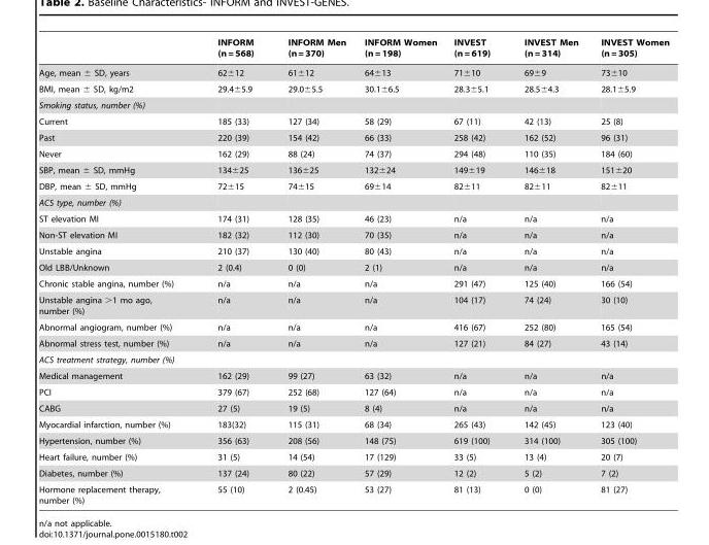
<table><thead><tr><td></td><td>INFORM (n = 568)</td><td>INFORM Men (n = 370)</td><td>INFORM Women (n = 198)</td><td>INVEST (n = 619)</td><td>INVEST Men (n = 314)</td><td>INVEST Women (n = 305)</td></tr></thead><tbody><tr><td>Age, mean ± SD, years</td><td>62±12</td><td>61±12</td><td>64±13</td><td>71±10</td><td>69±9</td><td>73±10</td></tr><tr><td>BMI, mean ± SD, kg/m2</td><td>29.4±5.9</td><td>29.0±5.5</td><td>30.1±6.5</td><td>28.3±5.1</td><td>28.5±4.3</td><td>28.1±5.9</td></tr><tr><td colspan="7">Smoking status, number (%)</td></tr><tr><td>Current</td><td>185 (33)</td><td>127 (34)</td><td>58 (29)</td><td>67 (11)</td><td>42 (13)</td><td>25 (8)</td></tr><tr><td>Past</td><td>220 (39)</td><td>154 (42)</td><td>66 (33)</td><td>258 (42)</td><td>162 (52)</td><td>96 (31)</td></tr><tr><td>Never</td><td>162 (29)</td><td>88 (24)</td><td>74 (37)</td><td>294 (48)</td><td>110 (35)</td><td>184 (60)</td></tr><tr><td>SBP, mean ± SD, mmHg</td><td>134±25</td><td>136±25</td><td>132±24</td><td>149±19</td><td>146±18</td><td>151±20</td></tr><tr><td>DBP, mean ± SD, mmHg</td><td>72±15</td><td>74±15</td><td>69±14</td><td>82±11</td><td>82±11</td><td>82±11</td></tr><tr><td colspan="7">ACS type, number (%)</td></tr><tr><td>ST elevation MI</td><td>174 (31)</td><td>128 (35)</td><td>46 (23)</td><td>n/a</td><td>n/a</td><td>n/a</td></tr><tr><td>Non-ST elevation MI</td><td>182 (32)</td><td>112 (30)</td><td>70 (35)</td><td>n/a</td><td>n/a</td><td>n/a</td></tr><tr><td>Unstable angina</td><td>210 (37)</td><td>130 (40)</td><td>80 (43)</td><td>n/a</td><td>n/a</td><td>n/a</td></tr><tr><td>Old LBB/Unknown</td><td>2 (0.4)</td><td>0 (0)</td><td>2 (1)</td><td>n/a</td><td>n/a</td><td>n/a</td></tr><tr><td>Chronic stable angina, number (%)</td><td>n/a</td><td>n/a</td><td>n/a</td><td>291 (47)</td><td>125 (40)</td><td>166 (54)</td></tr><tr><td>Unstable angina &gt;1 mo ago, number (%)</td><td>n/a</td><td>n/a</td><td>n/a</td><td>104 (17)</td><td>74 (24)</td><td>30 (10)</td></tr><tr><td>Abnormal angiogram, number (%)</td><td>n/a</td><td>n/a</td><td>n/a</td><td>416 (67)</td><td>252 (80)</td><td>165 (54)</td></tr><tr><td>Abnormal stress test, number (%)</td><td>n/a</td><td>n/a</td><td>n/a</td><td>127 (21)</td><td>84 (27)</td><td>43 (14)</td></tr><tr><td colspan="7">ACS treatment strategy, number (%)</td></tr><tr><td>Medical management</td><td>162 (29)</td><td>99 (27)</td><td>63 (32)</td><td>n/a</td><td>n/a</td><td>n/a</td></tr><tr><td>PCI</td><td>379 (67)</td><td>252 (68)</td><td>127 (64)</td><td>n/a</td><td>n/a</td><td>n/a</td></tr><tr><td>CABG</td><td>27 (5)</td><td>19 (5)</td><td>8 (4)</td><td>n/a</td><td>n/a</td><td>n/a</td></tr><tr><td>Myocardial infarction, number (%)</td><td>183(32)</td><td>115 (31)</td><td>68 (34)</td><td>265 (43)</td><td>142 (45)</td><td>123 (40)</td></tr><tr><td>Hypertension, number (%)</td><td>356 (63)</td><td>208 (56)</td><td>148 (75)</td><td>619 (100)</td><td>314 (100)</td><td>305 (100)</td></tr><tr><td>Heart failure, number (%)</td><td>31 (5)</td><td>14 (54)</td><td>17 (129)</td><td>33 (5)</td><td>13 (4)</td><td>20 (7)</td></tr><tr><td>Diabetes, number (%)</td><td>137 (24)</td><td>80 (22)</td><td>57 (29)</td><td>12 (2)</td><td>5 (2)</td><td>7 (2)</td></tr><tr><td>Hormone replacement therapy, number (%)</td><td>55 (10)</td><td>2 (0.45)</td><td>53 (27)</td><td>81 (13)</td><td>0 (0)</td><td>81 (27)</td></tr></tbody></table>